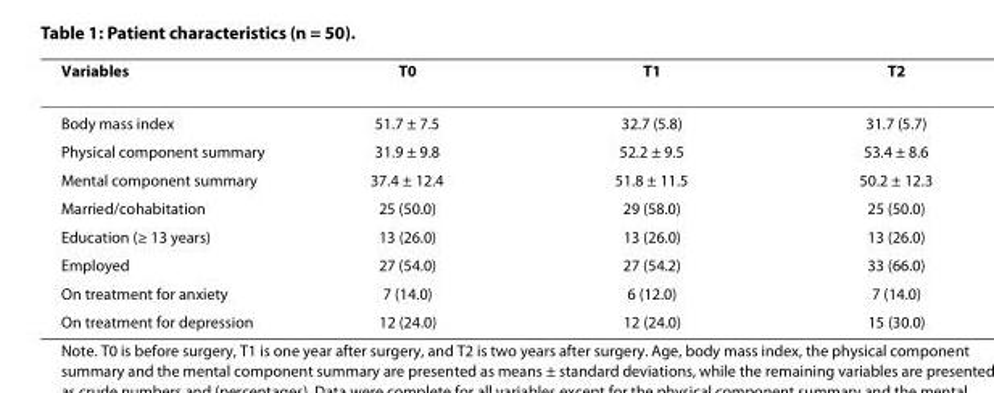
<table><thead><tr><td>Variables</td><td>T0</td><td>T1</td><td>T2</td></tr></thead><tbody><tr><td>Body mass index</td><td>51.7 ± 7.5</td><td>32.7 (5.8)</td><td>31.7 (5.7)</td></tr><tr><td>Physical component summary</td><td>31.9 ± 9.8</td><td>52.2 ± 9.5</td><td>53.4 ± 8.6</td></tr><tr><td>Mental component summary</td><td>37.4 ± 12.4</td><td>51.8 ± 11.5</td><td>50.2 ± 12.3</td></tr><tr><td>Married/cohabitation</td><td>25 (50.0)</td><td>29 (58.0)</td><td>25 (50.0)</td></tr><tr><td>Education (≥ 13 years)</td><td>13 (26.0)</td><td>13 (26.0)</td><td>13 (26.0)</td></tr><tr><td>Employed</td><td>27 (54.0)</td><td>27 (54.2)</td><td>33 (66.0)</td></tr><tr><td>On treatment for anxiety</td><td>7 (14.0)</td><td>6 (12.0)</td><td>7 (14.0)</td></tr><tr><td>On treatment for depression</td><td>12 (24.0)</td><td>12 (24.0)</td><td>15 (30.0)</td></tr></tbody></table>